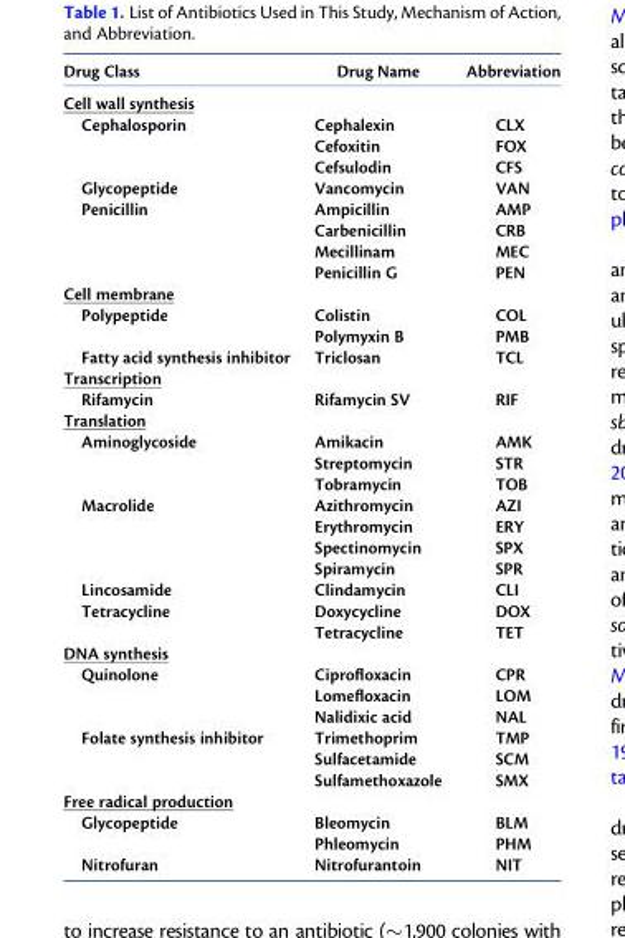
<table><thead><tr><td>Drug Class</td><td>Drug Name</td><td>Abbreviation</td></tr></thead><tbody><tr><td colspan="3">Cell wall synthesis</td></tr><tr><td rowspan="3">Cephalosporin</td><td>Cephalexin</td><td>CLX</td></tr><tr><td>Cefoxitin</td><td>FOX</td></tr><tr><td>Cefsulodin</td><td>CFS</td></tr><tr><td>Glycopeptide</td><td>Vancomycin</td><td>VAN</td></tr><tr><td rowspan="4">Penicillin</td><td>Ampicillin</td><td>AMP</td></tr><tr><td>Carbenicillin</td><td>CRB</td></tr><tr><td>Mecillinam</td><td>MEC</td></tr><tr><td>Penicillin G</td><td>PEN</td></tr><tr><td colspan="3">Cell membrane</td></tr><tr><td rowspan="2">Polypeptide</td><td>Colistin</td><td>COL</td></tr><tr><td>Polymyxin B</td><td>PMB</td></tr><tr><td>Fatty acid synthesis inhibitor</td><td>Triclosan</td><td>TCL</td></tr><tr><td colspan="3">Transcription</td></tr><tr><td>Rifamycin</td><td>Rifamycin SV</td><td>RIF</td></tr><tr><td colspan="3">Translation</td></tr><tr><td rowspan="3">Aminoglycoside</td><td>Amikacin</td><td>AMK</td></tr><tr><td>Streptomycin</td><td>STR</td></tr><tr><td>Tobramycin</td><td>TOB</td></tr><tr><td rowspan="4">Macrolide</td><td>Azithromycin</td><td>AZI</td></tr><tr><td>Erythromycin</td><td>ERY</td></tr><tr><td>Spectinomycin</td><td>SPX</td></tr><tr><td>Spiramycin</td><td>SPR</td></tr><tr><td>Lincosamide</td><td>Clindamycin</td><td>CLI</td></tr><tr><td rowspan="2">Tetracycline</td><td>Doxycycline</td><td>DOX</td></tr><tr><td>Tetracycline</td><td>TET</td></tr><tr><td colspan="3">DNA synthesis</td></tr><tr><td rowspan="3">Quinolone</td><td>Ciprofloxacin</td><td>CPR</td></tr><tr><td>Lomefloxacin</td><td>LOM</td></tr><tr><td>Nalidixic acid</td><td>NAL</td></tr><tr><td rowspan="3">Folate synthesis inhibitor</td><td>Trimethoprim</td><td>TMP</td></tr><tr><td>Sulfacetamide</td><td>SCM</td></tr><tr><td>Sulfamethoxazole</td><td>SMX</td></tr><tr><td colspan="3">Free radical production</td></tr><tr><td rowspan="2">Glycopeptide</td><td>Bleomycin</td><td>BLM</td></tr><tr><td>Phleomycin</td><td>PHM</td></tr><tr><td>Nitrofuran</td><td>Nitrofurantoin</td><td>NIT</td></tr></tbody></table>